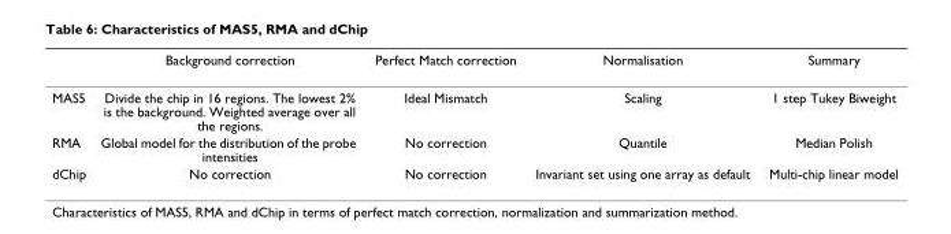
<table><thead><tr><td></td><td>Background correction</td><td>Perfect Match correction</td><td>Normalisation</td><td>Summary</td></tr></thead><tbody><tr><td>MAS5</td><td>Divide the chip in 16 regions. The lowest 2% is the background. Weighted average over all the regions.</td><td>Ideal Mismatch</td><td>Scaling</td><td>1 step Tukey Biweight</td></tr><tr><td>RMA</td><td>Global model for the distribution of the probe intensities</td><td>No correction</td><td>Quantile</td><td>Median Polish</td></tr><tr><td>dChip</td><td>No correction</td><td>No correction</td><td>Invariant set using one array as default</td><td>Multi-chip linear model</td></tr></tbody></table>